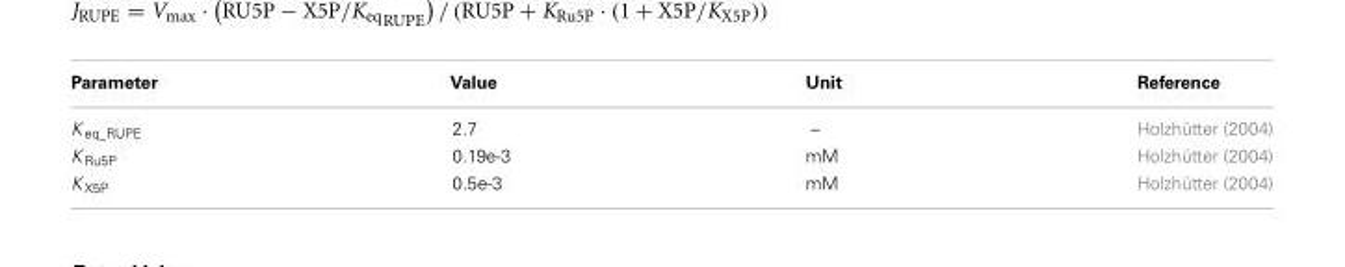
<table><thead><tr><td>Parameter</td><td>Value</td><td>Unit</td><td>Reference</td></tr></thead><tbody><tr><td>K <sub>eq_RUPE</sub></td><td>2.7</td><td>–</td><td>Holzhütter (2004)</td></tr><tr><td>K <sub>Ru5P</sub></td><td>0.19e-3</td><td>mM</td><td>Holzhütter (2004)</td></tr><tr><td>K <sub>X5P</sub></td><td>0.5e-3</td><td>mM</td><td>Holzhütter (2004)</td></tr></tbody></table>